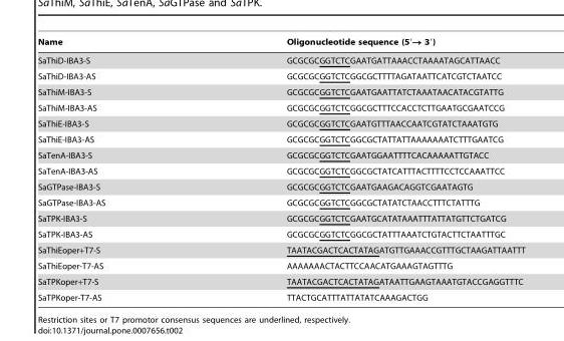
<table><thead><tr><td>Name</td><td>Oligonucleotide sequence (5′→ 3′)</td></tr></thead><tbody><tr><td>SaThiD-IBA3-S</td><td>GCGCGCGGTCTCGAATGATTAAACCTAAAATAGCATTAACC</td></tr><tr><td>SaThiD-IBA3-AS</td><td>GCGCGCGGTCTCGGCGCTTTTAGATAATTCATCGTCTAATCC</td></tr><tr><td>SaThiM-IBA3-S</td><td>GCGCGCGGTCTCGAATGAATTATCTAAATAACATACGTATTG</td></tr><tr><td>SaThiM-IBA3-AS</td><td>GCGCGCGGTCTCGGCGCTTTCCACCTCTTGAATGCGAATCCG</td></tr><tr><td>SaThiE-IBA3-S</td><td>GCGCGCGGTCTCGAATGTTTAACCAATCGTATCTAAATGTG</td></tr><tr><td>SaThiE-IBA3-AS</td><td>GCGCGCGGTCTCGGCGCTATTATTAAAAAAATCTTTGAATCG</td></tr><tr><td>SaTenA-IBA3-S</td><td>GCGCGCGGTCTCGAATGGAATTTTCACAAAAATTGTACC</td></tr><tr><td>SaTenA-IBA3-AS</td><td>GCGCGCGGTCTCGGCGCTATCATTTACTTTTCCTCCAAATTCC</td></tr><tr><td>SaGTPase-IBA3-S</td><td>GCGCGCGGTCTCGAATGAAGACAGGTCGAATAGTG</td></tr><tr><td>SaGTPase-IBA3-AS</td><td>GCGCGCGGTCTCGGCGCTATATCTAACCTTTCTATTTG</td></tr><tr><td>SaTPK-IBA3-S</td><td>GCGCGCGGTCTCGAATGCATATAAATTTATTATGTTCTGATCG</td></tr><tr><td>SaTPK-IBA3-AS</td><td>GCGCGCGGTCTCGGCGCTATTTAAATCTGTACTTCTAATTTGC</td></tr><tr><td>SaThiEoper+T7-S</td><td>TAATACGACTCACTATAGATGTTGAAACCGTTTGCTAAGATTAATTT</td></tr><tr><td>SaThiEoper-T7-AS</td><td>AAAAAAACTACTTCCAACATGAAAGTAGTTTG</td></tr><tr><td>SaTPKoper+T7-S</td><td>TAATACGACTCACTATAGATAATTGAAGTAAATGTACCGAGGTTTC</td></tr><tr><td>SaTPKoper-T7-AS</td><td>TTACTGCATTTATTATATCAAAGACTGG</td></tr></tbody></table>